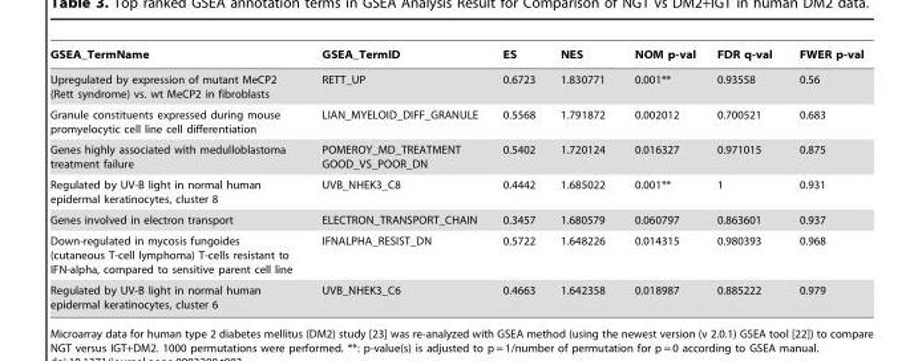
<table><thead><tr><td>GSEA_TermName</td><td>GSEA_TermID</td><td>ES</td><td>NES</td><td>NOM p-val</td><td>FDR q-val</td><td>FWER p-val</td></tr></thead><tbody><tr><td>Upregulated by expression of mutant MeCP2 (Rett syndrome) vs. wt MeCP2 in fibroblasts</td><td>RETT_UP</td><td>0.6723</td><td>1.830771</td><td>0.001**</td><td>0.93558</td><td>0.56</td></tr><tr><td>Granule constituents expressed during mouse promyelocytic cell line cell differentiation</td><td>LIAN_MYELOID_DIFF_GRANULE</td><td>0.5568</td><td>1.791872</td><td>0.002012</td><td>0.700521</td><td>0.683</td></tr><tr><td>Genes highly associated with medulloblastoma treatment failure</td><td>POMEROY_MD_TREATMENT GOOD_VS_POOR_DN</td><td>0.5402</td><td>1.720124</td><td>0.016327</td><td>0.971015</td><td>0.875</td></tr><tr><td>Regulated by UV-B light in normal human epidermal keratinocytes, cluster 8</td><td>UVB_NHEK3_C8</td><td>0.4442</td><td>1.685022</td><td>0.001**</td><td>1</td><td>0.931</td></tr><tr><td>Genes involved in electron transport</td><td>ELECTRON_TRANSPORT_CHAIN</td><td>0.3457</td><td>1.680579</td><td>0.060797</td><td>0.863601</td><td>0.937</td></tr><tr><td>Down-regulated in mycosis fungoides (cutaneous T-cell lymphoma) T-cells resistant to IFN-alpha, compared to sensitive parent cell line</td><td>IFNALPHA_RESIST_DN</td><td>0.5722</td><td>1.648226</td><td>0.014315</td><td>0.980393</td><td>0.968</td></tr><tr><td>Regulated by UV-B light in normal human epidermal keratinocytes, cluster 6</td><td>UVB_NHEK3_C6</td><td>0.4663</td><td>1.642358</td><td>0.018987</td><td>0.885222</td><td>0.979</td></tr></tbody></table>